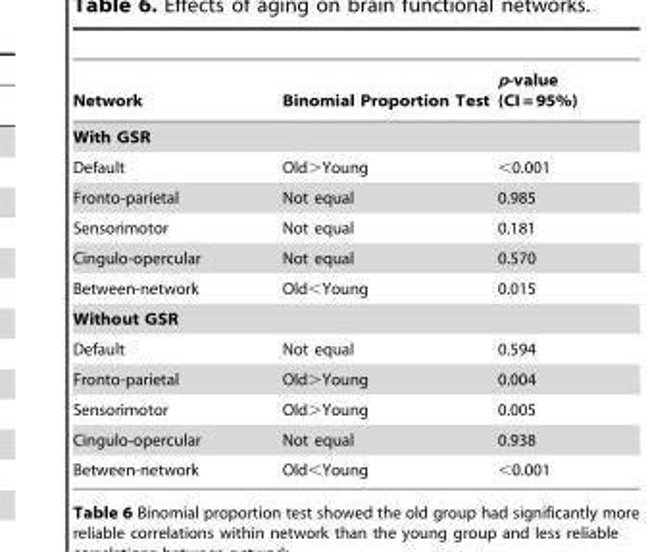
<table><thead><tr><td>Network</td><td>Binomial Proportion Test</td><td>p-value (CI = 95%)</td></tr></thead><tbody><tr><td colspan="3">With GSR</td></tr><tr><td>Default</td><td>Old&gt;Young</td><td>&lt;0.001</td></tr><tr><td>Fronto-parietal</td><td>Not equal</td><td>0.985</td></tr><tr><td>Sensorimotor</td><td>Not equal</td><td>0.181</td></tr><tr><td>Cingulo-opercular</td><td>Not equal</td><td>0.570</td></tr><tr><td>Between-network</td><td>Old&lt;Young</td><td>0.015</td></tr><tr><td colspan="3">Without GSR</td></tr><tr><td>Default</td><td>Not equal</td><td>0.594</td></tr><tr><td>Fronto-parietal</td><td>Old&gt;Young</td><td>0.004</td></tr><tr><td>Sensorimotor</td><td>Old&gt;Young</td><td>0.005</td></tr><tr><td>Cingulo-opercular</td><td>Not equal</td><td>0.938</td></tr><tr><td>Between-network</td><td>Old&lt;Young</td><td>&lt;0.001</td></tr></tbody></table>